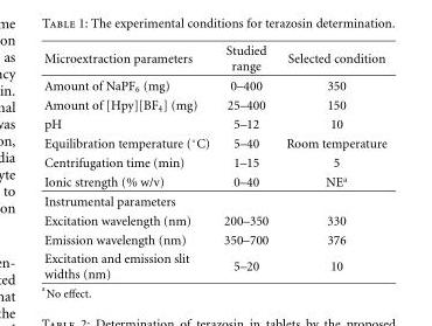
<table><thead><tr><td>Microextraction parameters</td><td>Studied range</td><td>Selected condition</td></tr></thead><tbody><tr><td>Amount of NaPF<sub>6</sub> (mg)</td><td>0–400</td><td>350</td></tr><tr><td>Amount of [Hpy][BF<sub>4</sub>] (mg)</td><td>25–400</td><td>150</td></tr><tr><td>pH</td><td>5–12</td><td>10</td></tr><tr><td>Equilibration temperature (◦C)</td><td>5–40</td><td>Room temperature</td></tr><tr><td>Centrifugation time (min)</td><td>1–15</td><td>5</td></tr><tr><td>Ionic strength (% w/v)</td><td>0–40</td><td>NE<sup>a</sup></td></tr><tr><td colspan="3">Instrumental parameters</td></tr><tr><td>Excitation wavelength (nm)</td><td>200–350</td><td>330</td></tr><tr><td>Emission wavelength (nm)</td><td>350–700</td><td>376</td></tr><tr><td>Excitation and emission slit widths (nm)</td><td>5–20</td><td>10</td></tr></tbody></table>